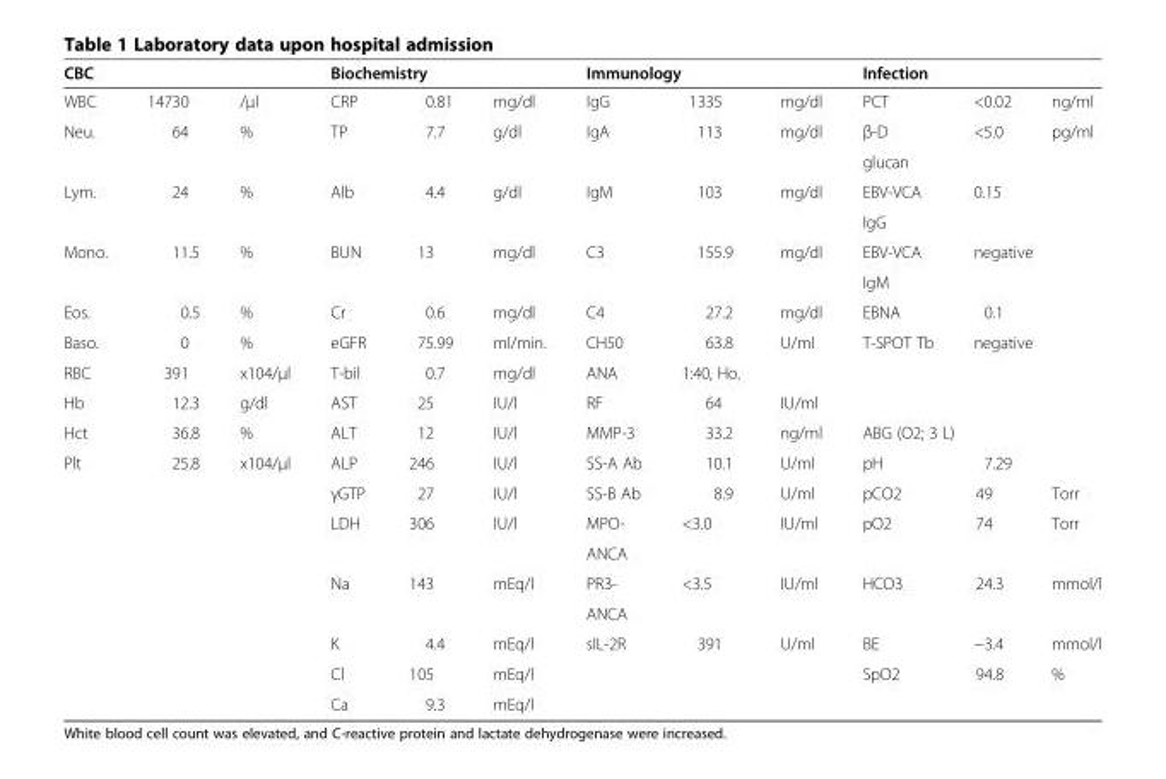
<table><thead><tr><td colspan="3">CBC</td><td colspan="3">Biochemistry</td><td colspan="3">Immunology</td><td colspan="3">Infection</td></tr><tr><td>WBC</td><td>14730</td><td>/μl</td><td>CRP</td><td>0.81</td><td>mg/dl</td><td>IgG</td><td>1335</td><td>mg/dl</td><td>PCT</td><td>&lt;0.02</td><td>ng/ml</td></tr></thead><tbody><tr><td rowspan="2">Neu.</td><td rowspan="2">64</td><td rowspan="2">%</td><td rowspan="2">TP</td><td rowspan="2">7.7</td><td rowspan="2">g/dl</td><td rowspan="2">IgA</td><td rowspan="2">113</td><td rowspan="2">mg/dl</td><td>β-D</td><td rowspan="2">&lt;5.0</td><td rowspan="2">pg/ml</td></tr><tr><td>glucan</td></tr><tr><td rowspan="2">Lym.</td><td rowspan="2">24</td><td rowspan="2">%</td><td rowspan="2">Alb</td><td rowspan="2">4.4</td><td rowspan="2">g/dl</td><td rowspan="2">IgM</td><td rowspan="2">103</td><td rowspan="2">mg/dl</td><td>EBV-VCA</td><td rowspan="2" colspan="2">0.15</td></tr><tr><td>IgG</td></tr><tr><td rowspan="2">Mono.</td><td rowspan="2">11.5</td><td rowspan="2">%</td><td rowspan="2">BUN</td><td rowspan="2">13</td><td rowspan="2">mg/dl</td><td rowspan="2">C3</td><td rowspan="2">155.9</td><td rowspan="2">mg/dl</td><td>EBV-VCA</td><td rowspan="2" colspan="2">negative</td></tr><tr><td>IgM</td></tr><tr><td>Eos.</td><td>0.5</td><td>%</td><td>Cr</td><td>0.6</td><td>mg/dl</td><td>C4</td><td>27.2</td><td>mg/dl</td><td>EBNA</td><td>0.1</td><td></td></tr><tr><td>Baso.</td><td>0</td><td>%</td><td>eGFR</td><td>75.99</td><td>ml/min.</td><td>CH50</td><td>63.8</td><td>U/ml</td><td>T-SPOT Tb</td><td colspan="2">negative</td></tr><tr><td>RBC</td><td>391</td><td>x104/μl</td><td>T-bil</td><td>0.7</td><td>mg/dl</td><td>ANA</td><td>1:40, Ho.</td><td></td><td></td><td></td><td></td></tr><tr><td>Hb</td><td>12.3</td><td>g/dl</td><td>AST</td><td>25</td><td>IU/l</td><td>RF</td><td>64</td><td>IU/ml</td><td></td><td></td><td></td></tr><tr><td>Hct</td><td>36.8</td><td>%</td><td>ALT</td><td>12</td><td>IU/l</td><td>MMP-3</td><td>33.2</td><td>ng/ml</td><td colspan="3">ABG (O2; 3 L)</td></tr><tr><td rowspan="9">Plt</td><td>25.8</td><td>x104/μl</td><td>ALP</td><td>246</td><td>IU/l</td><td>SS-A Ab</td><td>10.1</td><td>U/ml</td><td>pH</td><td>7.29</td><td></td></tr><tr><td></td><td></td><td>γGTP</td><td>27</td><td>IU/l</td><td>SS-B Ab</td><td>8.9</td><td>U/ml</td><td>pCO2</td><td>49</td><td>Torr</td></tr><tr><td></td><td></td><td rowspan="2">LDH</td><td rowspan="2">306</td><td rowspan="2">IU/l</td><td>MPO-</td><td rowspan="2">&lt;3.0</td><td rowspan="2">IU/ml</td><td rowspan="2">pO2</td><td rowspan="2">74</td><td rowspan="2">Torr</td></tr><tr><td></td><td></td><td>ANCA</td></tr><tr><td></td><td></td><td rowspan="2">Na</td><td rowspan="2">143</td><td rowspan="2">mEq/l</td><td>PR3-</td><td rowspan="2">&lt;3.5</td><td rowspan="2">IU/ml</td><td rowspan="2">HCO3</td><td rowspan="2">24.3</td><td rowspan="2">mmol/l</td></tr><tr><td></td><td></td><td>ANCA</td></tr><tr><td></td><td></td><td>K</td><td>4.4</td><td>mEq/l</td><td>sIL-2R</td><td>391</td><td>U/ml</td><td>BE</td><td>−3.4</td><td>mmol/l</td></tr><tr><td></td><td></td><td>Cl</td><td>105</td><td>mEq/l</td><td></td><td></td><td></td><td>SpO2</td><td>94.8</td><td>%</td></tr><tr><td></td><td></td><td>Ca</td><td>9.3</td><td>mEq/l</td><td></td><td></td><td></td><td></td><td></td><td></td></tr></tbody></table>